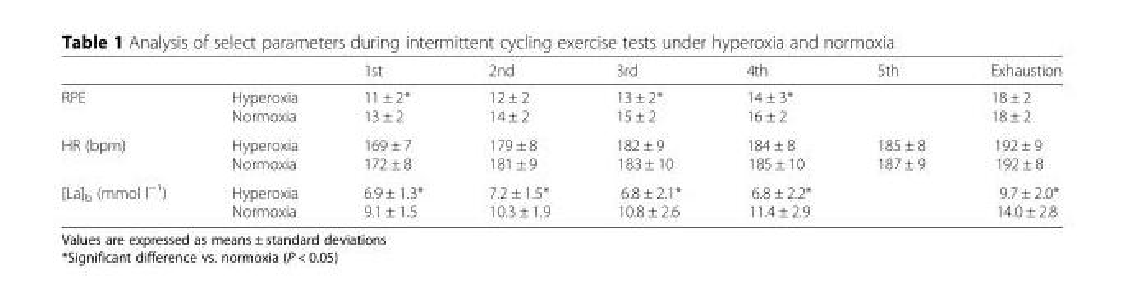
<table><thead><tr><td></td><td></td><td>1st</td><td>2nd</td><td>3rd</td><td>4th</td><td>5th</td><td>Exhaustion</td></tr></thead><tbody><tr><td>RPE</td><td>Hyperoxia Normoxia</td><td>11 ± 2* 13 ± 2</td><td>12 ± 2 14 ± 2</td><td>13 ± 2* 15 ± 2</td><td>14 ± 3* 16 ± 2</td><td></td><td>18 ± 2 18 ± 2</td></tr><tr><td>HR (bpm)</td><td>Hyperoxia Normoxia</td><td>169 ± 7 172 ± 8</td><td>179 ± 8 181 ± 9</td><td>182 ± 9 183 ± 10</td><td>184 ± 8 185 ± 10</td><td>185 ± 8 187 ± 9</td><td>192 ± 9 192 ± 8</td></tr><tr><td>[La]<sub>b</sub> (mmol l<sup>−1</sup>)</td><td>Hyperoxia Normoxia</td><td>6.9 ± 1.3* 9.1 ± 1.5</td><td>7.2 ± 1.5* 10.3 ± 1.9</td><td>6.8 ± 2.1* 10.8 ± 2.6</td><td>6.8 ± 2.2* 11.4 ± 2.9</td><td></td><td>9.7 ± 2.0* 14.0 ± 2.8</td></tr></tbody></table>